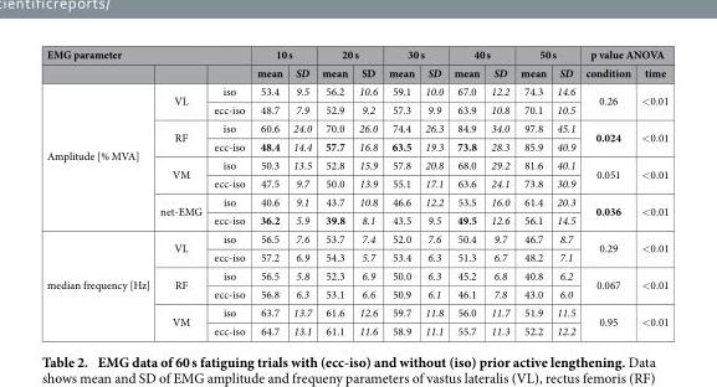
<table><thead><tr><td colspan="3">EMG parameter</td><td colspan="2">10 s</td><td colspan="2">20 s</td><td colspan="2">30 s</td><td colspan="2">40 s</td><td colspan="2">50 s</td><td colspan="2">p value ANOVA</td></tr><tr><td></td><td></td><td></td><td>mean</td><td>SD</td><td>mean</td><td>SD</td><td>mean</td><td>SD</td><td>mean</td><td>SD</td><td>mean</td><td>SD</td><td>condition</td><td>time</td></tr></thead><tbody><tr><td rowspan="8">Amplitude [% MVA]</td><td rowspan="2">VL</td><td>iso</td><td>53.4</td><td>9.5</td><td>56.2</td><td>10.6</td><td>59.1</td><td>10.0</td><td>67.0</td><td>12.2</td><td>74.3</td><td>14.6</td><td rowspan="2">0.26</td><td rowspan="2">&lt; 0.01</td></tr><tr><td>ecc-iso</td><td>48.7</td><td>7.9</td><td>52.9</td><td>9.2</td><td>57.3</td><td>9.9</td><td>63.9</td><td>10.8</td><td>70.1</td><td>10.5</td></tr><tr><td rowspan="2">RF</td><td>iso</td><td>60.6</td><td>24.0</td><td>70.0</td><td>26.0</td><td>74.4</td><td>26.3</td><td>84.9</td><td>34.0</td><td>97.8</td><td>45.1</td><td rowspan="2">0.024</td><td rowspan="2">&lt; 0.01</td></tr><tr><td>ecc-iso</td><td>48.4</td><td>14.4</td><td>57.7</td><td>16.8</td><td>63.5</td><td>19.3</td><td>73.8</td><td>28.3</td><td>85.9</td><td>40.9</td></tr><tr><td rowspan="2">VM</td><td>iso</td><td>50.3</td><td>13.5</td><td>52.8</td><td>15.9</td><td>57.8</td><td>20.8</td><td>68.0</td><td>29.2</td><td>81.6</td><td>40.1</td><td rowspan="2">0.051</td><td rowspan="2">&lt; 0.01</td></tr><tr><td>ecc-iso</td><td>47.5</td><td>9.7</td><td>50.0</td><td>13.9</td><td>55.1</td><td>17.1</td><td>63.6</td><td>24.1</td><td>73.8</td><td>30.9</td></tr><tr><td rowspan="2">net-EMG</td><td>iso</td><td>40.6</td><td>9.1</td><td>43.7</td><td>10.8</td><td>46.6</td><td>12.2</td><td>53.5</td><td>16.0</td><td>61.4</td><td>20.3</td><td rowspan="2">0.036</td><td rowspan="2">&lt; 0.01</td></tr><tr><td>ecc-iso</td><td>36.2</td><td>5.9</td><td>39.8</td><td>8.1</td><td>43.5</td><td>9.5</td><td>49.5</td><td>12.6</td><td>56.1</td><td>14.5</td></tr><tr><td rowspan="6">median frequency [Hz]</td><td rowspan="2">VL</td><td>iso</td><td>56.5</td><td>7.6</td><td>53.7</td><td>7.4</td><td>52.0</td><td>7.6</td><td>50.4</td><td>9.7</td><td>46.7</td><td>8.7</td><td rowspan="2">0.29</td><td rowspan="2">&lt; 0.01</td></tr><tr><td>ecc-iso</td><td>57.2</td><td>6.9</td><td>54.3</td><td>5.7</td><td>53.4</td><td>6.3</td><td>51.3</td><td>6.7</td><td>48.2</td><td>7.1</td></tr><tr><td rowspan="2">RF</td><td>iso</td><td>56.5</td><td>5.8</td><td>52.3</td><td>6.9</td><td>50.0</td><td>6.3</td><td>45.2</td><td>6.8</td><td>40.8</td><td>6.2</td><td rowspan="2">0.067</td><td rowspan="2">&lt; 0.01</td></tr><tr><td>ecc-iso</td><td>56.8</td><td>6.3</td><td>53.1</td><td>6.6</td><td>50.9</td><td>6.1</td><td>46.1</td><td>7.8</td><td>43.0</td><td>6.0</td></tr><tr><td rowspan="2">VM</td><td>iso</td><td>63.7</td><td>13.7</td><td>61.6</td><td>12.6</td><td>59.7</td><td>11.8</td><td>56.0</td><td>11.7</td><td>51.9</td><td>11.5</td><td rowspan="2">0.95</td><td rowspan="2">&lt; 0.01</td></tr><tr><td>ecc-iso</td><td>64.7</td><td>13.1</td><td>61.1</td><td>11.6</td><td>58.9</td><td>11.1</td><td>55.7</td><td>11.3</td><td>52.2</td><td>12.2</td></tr></tbody></table>